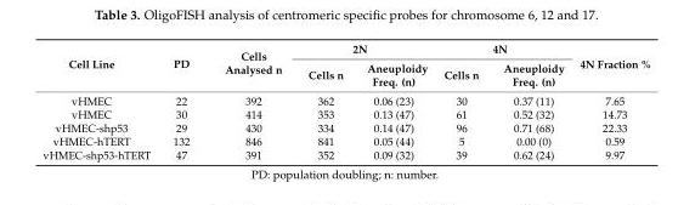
<table><thead><tr><td rowspan="2">Cell Line</td><td rowspan="2">PD</td><td rowspan="2">Cells Analysed n</td><td colspan="2">2N</td><td colspan="2">4N</td><td rowspan="2">4N Fraction %</td></tr><tr><td>Cells n</td><td>Aneuploidy Freq. (n)</td><td>Cells n</td><td>Aneuploidy Freq. (n)</td></tr></thead><tbody><tr><td>vHMEC</td><td>22</td><td>392</td><td>362</td><td>0.06 (23)</td><td>30</td><td>0.37 (11)</td><td>7.65</td></tr><tr><td>vHMEC</td><td>30</td><td>414</td><td>353</td><td>0.13 (47)</td><td>61</td><td>0.52 (32)</td><td>14.73</td></tr><tr><td>vHMEC-shp53</td><td>29</td><td>430</td><td>334</td><td>0.14 (47)</td><td>96</td><td>0.71 (68)</td><td>22.33</td></tr><tr><td>vHMEC-hTERT</td><td>132</td><td>846</td><td>841</td><td>0.05 (44)</td><td>5</td><td>0.00 (0)</td><td>0.59</td></tr><tr><td>vHMEC-shp53-hTERT</td><td>47</td><td>391</td><td>352</td><td>0.09 (32)</td><td>39</td><td>0.62 (24)</td><td>9.97</td></tr></tbody></table>